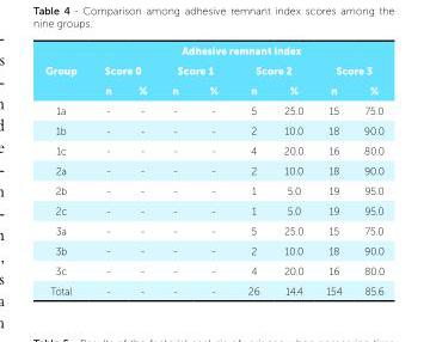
<table><thead><tr><td rowspan="3">Group</td><td colspan="8">Adhesive remnant index</td></tr><tr><td colspan="2">Score 0</td><td colspan="2">Score 1</td><td colspan="2">Score 2</td><td colspan="2">Score 3</td></tr><tr><td>n</td><td>%</td><td>n</td><td>%</td><td>n</td><td>%</td><td>n</td><td>%</td></tr></thead><tbody><tr><td>1a</td><td>-</td><td>-</td><td>-</td><td>-</td><td>5</td><td>25.0</td><td>15</td><td>75.0</td></tr><tr><td>1b</td><td>-</td><td>-</td><td>-</td><td>-</td><td>2</td><td>10.0</td><td>18</td><td>90.0</td></tr><tr><td>1c</td><td>-</td><td>-</td><td>-</td><td>-</td><td>4</td><td>20.0</td><td>16</td><td>80.0</td></tr><tr><td>2a</td><td>-</td><td>-</td><td>-</td><td>-</td><td>2</td><td>10.0</td><td>18</td><td>90.0</td></tr><tr><td>2b</td><td>-</td><td>-</td><td>-</td><td>-</td><td>1</td><td>5.0</td><td>19</td><td>95.0</td></tr><tr><td>2c</td><td>-</td><td>-</td><td>-</td><td>-</td><td>1</td><td>5.0</td><td>19</td><td>95.0</td></tr><tr><td>3a</td><td>-</td><td>-</td><td>-</td><td>-</td><td>5</td><td>25.0</td><td>15</td><td>75.0</td></tr><tr><td>3b</td><td>-</td><td>-</td><td>-</td><td>-</td><td>2</td><td>10.0</td><td>18</td><td>90.0</td></tr><tr><td>3c</td><td>-</td><td>-</td><td>-</td><td>-</td><td>4</td><td>20.0</td><td>16</td><td>80.0</td></tr><tr><td>Total</td><td>-</td><td>-</td><td>-</td><td>-</td><td>26</td><td>14.4</td><td>154</td><td>85.6</td></tr></tbody></table>